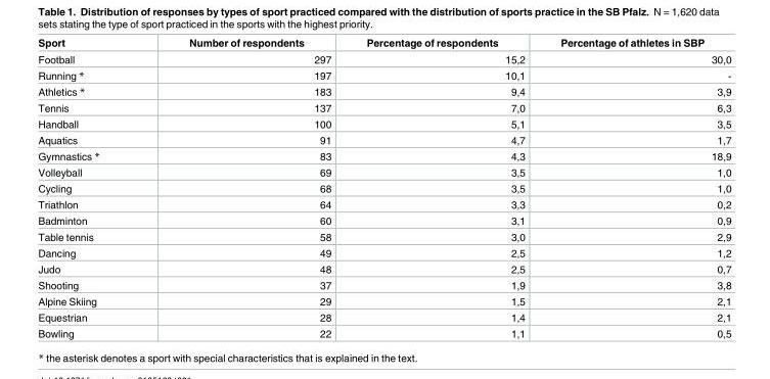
<table><thead><tr><td>Sport</td><td>Number of respondents</td><td>Percentage of respondents</td><td>Percentage of athletes in SBP</td></tr></thead><tbody><tr><td>Football</td><td>297</td><td>15,2</td><td>30,0</td></tr><tr><td>Running *</td><td>197</td><td>10,1</td><td>-</td></tr><tr><td>Athletics *</td><td>183</td><td>9,4</td><td>3,9</td></tr><tr><td>Tennis</td><td>137</td><td>7,0</td><td>6,3</td></tr><tr><td>Handball</td><td>100</td><td>5,1</td><td>3,5</td></tr><tr><td>Aquatics</td><td>91</td><td>4,7</td><td>1,7</td></tr><tr><td>Gymnastics *</td><td>83</td><td>4,3</td><td>18,9</td></tr><tr><td>Volleyball</td><td>69</td><td>3,5</td><td>1,0</td></tr><tr><td>Cycling</td><td>68</td><td>3,5</td><td>1,0</td></tr><tr><td>Triathlon</td><td>64</td><td>3,3</td><td>0,2</td></tr><tr><td>Badminton</td><td>60</td><td>3,1</td><td>0,9</td></tr><tr><td>Table tennis</td><td>58</td><td>3,0</td><td>2,9</td></tr><tr><td>Dancing</td><td>49</td><td>2,5</td><td>1,2</td></tr><tr><td>Judo</td><td>48</td><td>2,5</td><td>0,7</td></tr><tr><td>Shooting</td><td>37</td><td>1,9</td><td>3,8</td></tr><tr><td>Alpine Skiing</td><td>29</td><td>1,5</td><td>2,1</td></tr><tr><td>Equestrian</td><td>28</td><td>1,4</td><td>2,1</td></tr><tr><td>Bowling</td><td>22</td><td>1,1</td><td>0,5</td></tr></tbody></table>